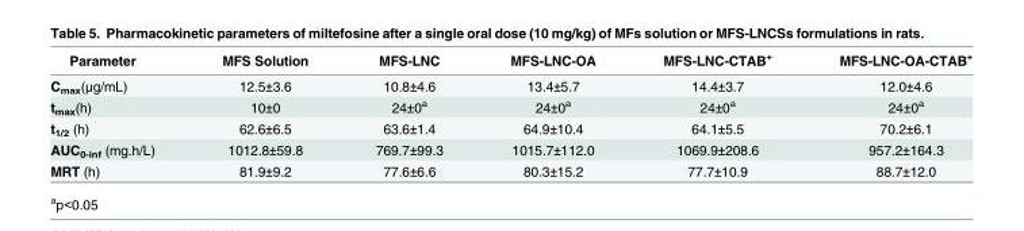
<table><thead><tr><td>Parameter</td><td>MFS Solution</td><td>MFS-LNC</td><td>MFS-LNC-OA</td><td>MFS-LNC-CTAB<sup>+</sup></td><td>MFS-LNC-OA-CTAB<sup>+</sup></td></tr></thead><tbody><tr><td>C<sub>max</sub>(μg/mL)</td><td>12.5±3.6</td><td>10.8±4.6</td><td>13.4±5.7</td><td>14.4±3.7</td><td>12.0±4.6</td></tr><tr><td>t<sub>max</sub>(h)</td><td>10±0</td><td>24±0<sup>a</sup></td><td>24±0<sup>a</sup></td><td>24±0<sup>a</sup></td><td>24±0<sup>a</sup></td></tr><tr><td>t<sub>1/2</sub> (h)</td><td>62.6±6.5</td><td>63.6±1.4</td><td>64.9±10.4</td><td>64.1±5.5</td><td>70.2±6.1</td></tr><tr><td>AUC<sub>0-inf</sub> (mg.h/L)</td><td>1012.8±59.8</td><td>769.7±99.3</td><td>1015.7±112.0</td><td>1069.9±208.6</td><td>957.2±164.3</td></tr><tr><td>MRT (h)</td><td>81.9±9.2</td><td>77.6±6.6</td><td>80.3±15.2</td><td>77.7±10.9</td><td>88.7±12.0</td></tr></tbody></table>